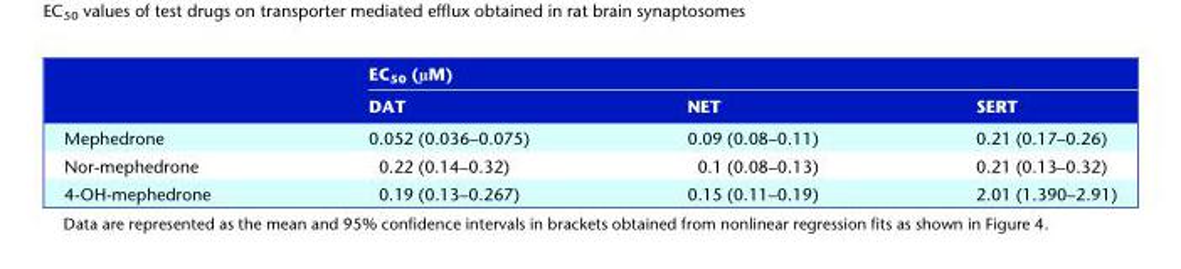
<table><thead><tr><td rowspan="2"></td><td colspan="3">EC<sub>50</sub> (μM)</td></tr><tr><td>DAT</td><td>NET</td><td>SERT</td></tr></thead><tbody><tr><td>Mephedrone</td><td>0.052 (0.036–0.075)</td><td>0.09 (0.08–0.11)</td><td>0.21 (0.17–0.26)</td></tr><tr><td>Nor-mephedrone</td><td>0.22 (0.14–0.32)</td><td>0.1 (0.08–0.13)</td><td>0.21 (0.13–0.32)</td></tr><tr><td>4-OH-mephedrone</td><td>0.19 (0.13–0.267)</td><td>0.15 (0.11–0.19)</td><td>2.01 (1.390–2.91)</td></tr></tbody></table>